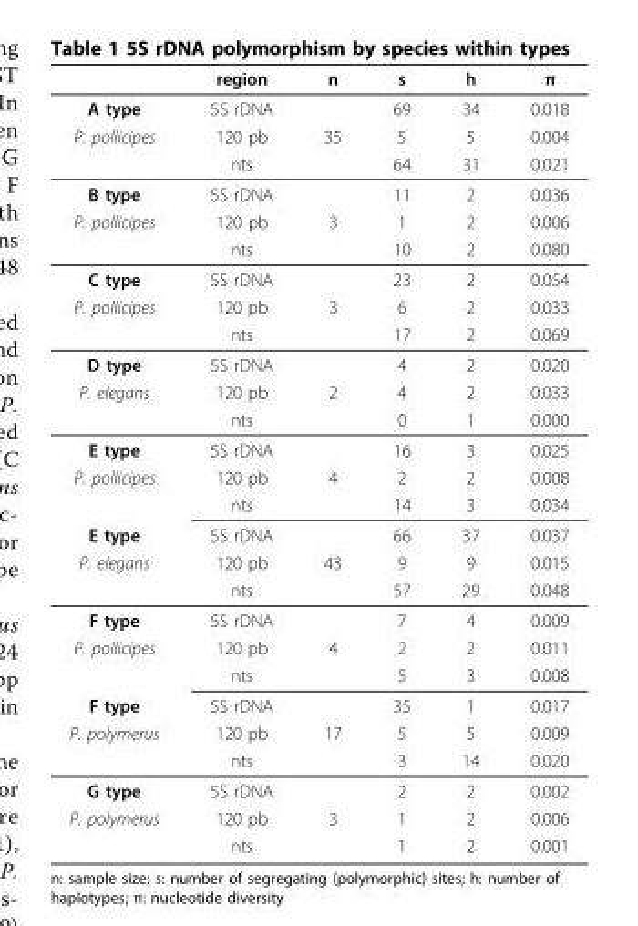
<table><thead><tr><td></td><td>region</td><td>n</td><td>s</td><td>h</td><td>π</td></tr></thead><tbody><tr><td>A type</td><td>5S rDNA</td><td></td><td>69</td><td>34</td><td>0.018</td></tr><tr><td rowspan="2">P. pollicipes</td><td>120 pb</td><td>35</td><td>5</td><td>5</td><td>0.004</td></tr><tr><td>nts</td><td></td><td>64</td><td>31</td><td>0.021</td></tr><tr><td>B type</td><td>5S rDNA</td><td></td><td>11</td><td>2</td><td>0.036</td></tr><tr><td rowspan="2">P. pollicipes</td><td>120 pb</td><td>3</td><td>1</td><td>2</td><td>0.006</td></tr><tr><td>nts</td><td></td><td>10</td><td>2</td><td>0.080</td></tr><tr><td>C type</td><td>5S rDNA</td><td></td><td>23</td><td>2</td><td>0.054</td></tr><tr><td rowspan="2">P. pollicipes</td><td>120 pb</td><td>3</td><td>6</td><td>2</td><td>0.033</td></tr><tr><td>nts</td><td></td><td>17</td><td>2</td><td>0.069</td></tr><tr><td>D type</td><td>5S rDNA</td><td></td><td>4</td><td>2</td><td>0.020</td></tr><tr><td rowspan="2">P. elegans</td><td>120 pb</td><td>2</td><td>4</td><td>2</td><td>0.033</td></tr><tr><td>nts</td><td></td><td>0</td><td>1</td><td>0.000</td></tr><tr><td>E type</td><td>5S rDNA</td><td></td><td>16</td><td>3</td><td>0.025</td></tr><tr><td rowspan="2">P. pollicipes</td><td>120 pb</td><td>4</td><td>2</td><td>2</td><td>0.008</td></tr><tr><td>nts</td><td></td><td>14</td><td>3</td><td>0.034</td></tr><tr><td>E type</td><td>5S rDNA</td><td></td><td>66</td><td>37</td><td>0.037</td></tr><tr><td rowspan="2">P. elegans</td><td>120 pb</td><td>43</td><td>9</td><td>9</td><td>0.015</td></tr><tr><td>nts</td><td></td><td>57</td><td>29</td><td>0.048</td></tr><tr><td>F type</td><td>5S rDNA</td><td></td><td>7</td><td>4</td><td>0.009</td></tr><tr><td rowspan="2">P. pollicipes</td><td>120 pb</td><td>4</td><td>2</td><td>2</td><td>0.011</td></tr><tr><td>nts</td><td></td><td>5</td><td>3</td><td>0.008</td></tr><tr><td>F type</td><td>5S rDNA</td><td></td><td>35</td><td>1</td><td>0.017</td></tr><tr><td rowspan="2">P. polymerus</td><td>120 pb</td><td>17</td><td>5</td><td>5</td><td>0.009</td></tr><tr><td>nts</td><td></td><td>3</td><td>14</td><td>0.020</td></tr><tr><td>G type</td><td>5S rDNA</td><td></td><td>2</td><td>2</td><td>0.002</td></tr><tr><td rowspan="2">P. polymerus</td><td>120 pb</td><td>3</td><td>1</td><td>2</td><td>0.006</td></tr><tr><td>nts</td><td></td><td>1</td><td>2</td><td>0.001</td></tr></tbody></table>